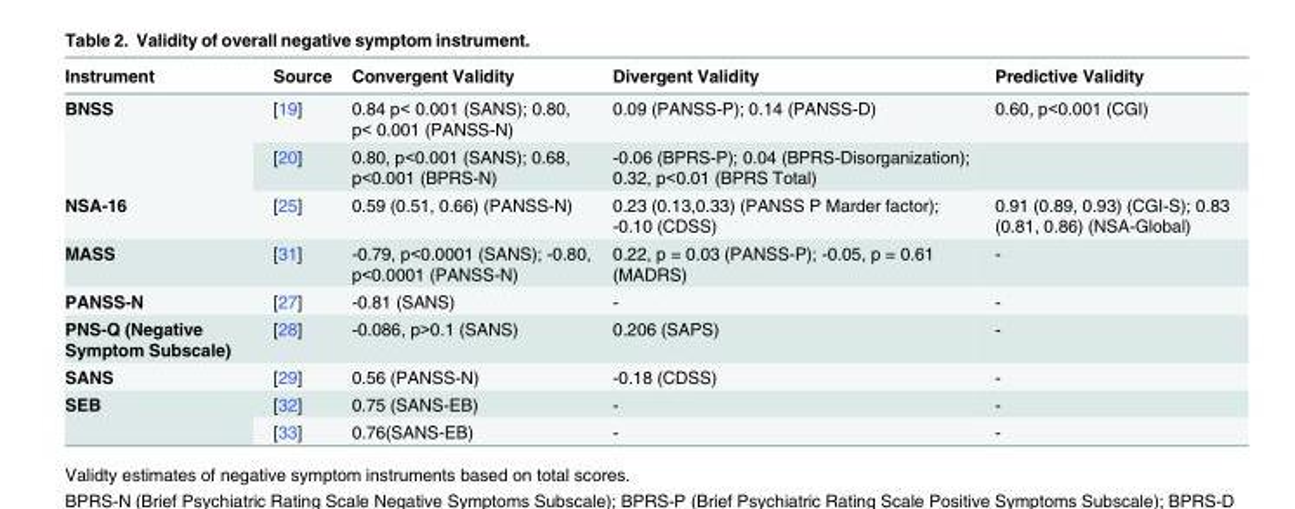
<table><thead><tr><td>Instrument</td><td>Source</td><td>Convergent Validity</td><td>Divergent Validity</td><td>Predictive Validity</td></tr></thead><tbody><tr><td rowspan="2">BNSS</td><td>[19]</td><td>0.84 p&lt; 0.001 (SANS); 0.80, p&lt; 0.001 (PANSS-N)</td><td>0.09 (PANSS-P); 0.14 (PANSS-D)</td><td>0.60, p&lt;0.001 (CGI)</td></tr><tr><td>[20]</td><td>0.80, p&lt;0.001 (SANS); 0.68, p&lt;0.001 (BPRS-N)</td><td>-0.06 (BPRS-P); 0.04 (BPRS-Disorganization); 0.32, p&lt;0.01 (BPRS Total)</td><td></td></tr><tr><td>NSA-16</td><td>[25]</td><td>0.59 (0.51, 0.66) (PANSS-N)</td><td>0.23 (0.13,0.33) (PANSS P Marder factor); -0.10 (CDSS)</td><td>0.91 (0.89, 0.93) (CGI-S); 0.83 (0.81, 0.86) (NSA-Global)</td></tr><tr><td>MASS</td><td>[31]</td><td>-0.79, p&lt;0.0001 (SANS); -0.80, p&lt;0.0001 (PANSS-N)</td><td>0.22, p = 0.03 (PANSS-P); -0.05, p = 0.61 (MADRS)</td><td>-</td></tr><tr><td>PANSS-N</td><td>[27]</td><td>-0.81 (SANS)</td><td>-</td><td>-</td></tr><tr><td>PNS-Q (Negative Symptom Subscale)</td><td>[28]</td><td>-0.086, p&gt;0.1 (SANS)</td><td>0.206 (SAPS)</td><td>-</td></tr><tr><td>SANS</td><td>[29]</td><td>0.56 (PANSS-N)</td><td>-0.18 (CDSS)</td><td>-</td></tr><tr><td rowspan="2">SEB</td><td>[32]</td><td>0.75 (SANS-EB)</td><td>-</td><td>-</td></tr><tr><td>[33]</td><td>0.76(SANS-EB)</td><td>-</td><td>-</td></tr></tbody></table>